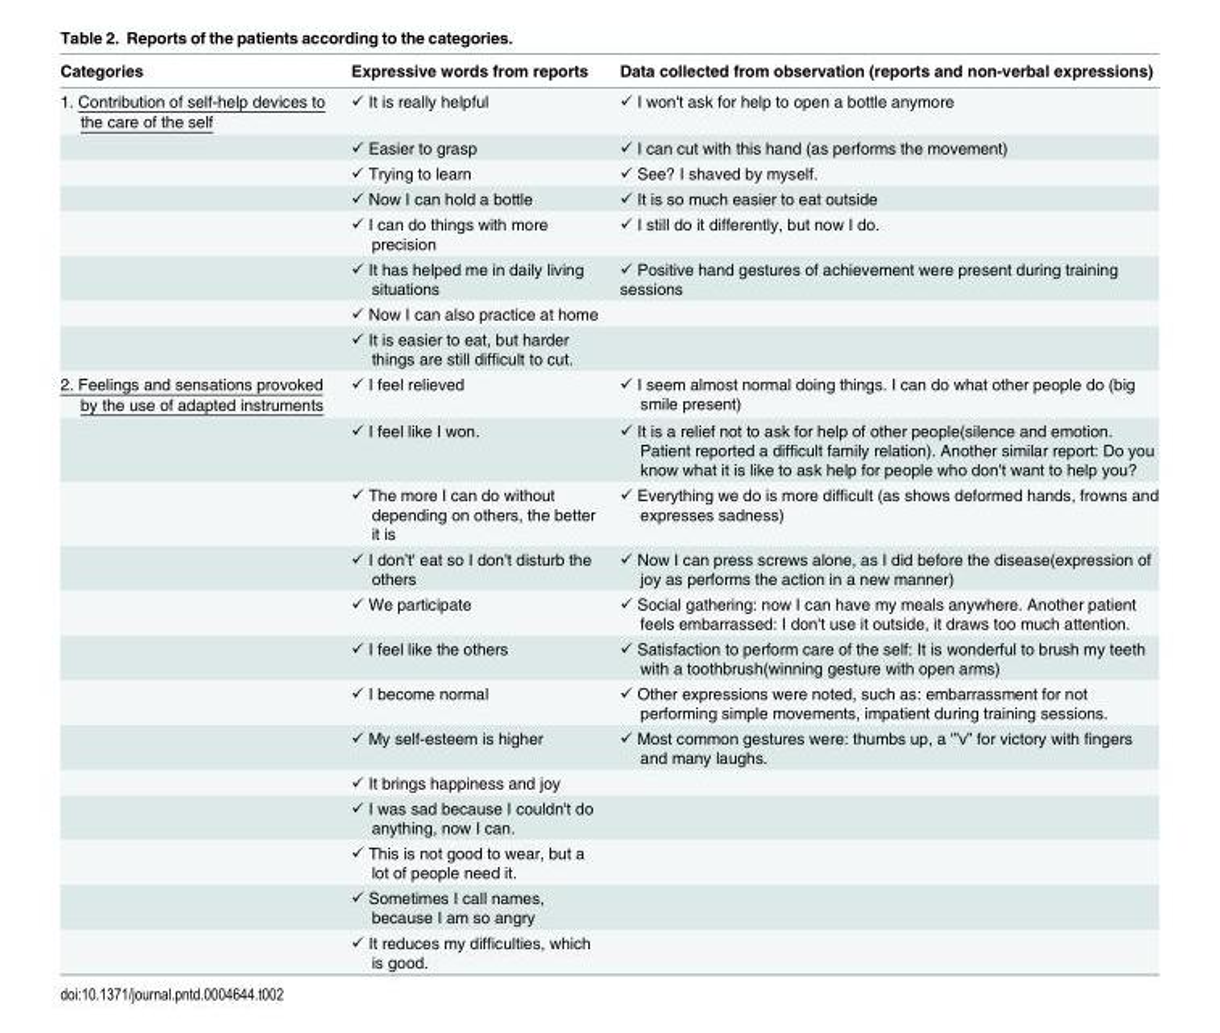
<table><thead><tr><td>Categories</td><td>Expressive words from reports</td><td>Data collected from observation (reports and non-verbal expressions)</td></tr></thead><tbody><tr><td rowspan="8">1. Contribution of self-help devices to the care of the self</td><td>✓ It is really helpful</td><td>✓ I won&#x27;t ask for help to open a bottle anymore</td></tr><tr><td>✓ Easier to grasp</td><td>✓ I can cut with this hand (as performs the movement)</td></tr><tr><td>✓ Trying to learn</td><td>✓ See? I shaved by myself.</td></tr><tr><td>✓ Now I can hold a bottle</td><td>✓ It is so much easier to eat outside</td></tr><tr><td>✓ I can do things with more precision</td><td>✓ I still do it differently, but now I do.</td></tr><tr><td>✓ It has helped me in daily living situations</td><td>✓ Positive hand gestures of achievement were present during training sessions</td></tr><tr><td>✓ Now I can also practice at home</td><td></td></tr><tr><td>✓ It is easier to eat, but harder things are still difficult to cut.</td><td></td></tr><tr><td rowspan="13">2. Feelings and sensations provoked by the use of adapted instruments</td><td>✓ I feel relieved</td><td>✓ I seem almost normal doing things. I can do what other people do (big smile present)</td></tr><tr><td>✓ I feel like I won.</td><td>✓ It is a relief not to ask for help of other people(silence and emotion. Patient reported a difficult family relation). Another similar report: Do you know what it is like to ask help for people who don&#x27;t want to help you?</td></tr><tr><td>✓ The more I can do without depending on others, the better it is</td><td>✓ Everything we do is more difficult (as shows deformed hands, frowns and expresses sadness)</td></tr><tr><td>✓ I don’t&#x27; eat so I don&#x27;t disturb the others</td><td>✓ Now I can press screws alone, as I did before the disease(expression of joy as performs the action in a new manner)</td></tr><tr><td>✓ We participate</td><td>✓ Social gathering: now I can have my meals anywhere. Another patient feels embarrassed: I don&#x27;t use it outside, it draws too much attention.</td></tr><tr><td>✓ I feel like the others</td><td>✓ Satisfaction to perform care of the self: It is wonderful to brush my teeth with a toothbrush(winning gesture with open arms)</td></tr><tr><td>✓ I become normal</td><td>✓ Other expressions were noted, such as: embarrassment for not performing simple movements, impatient during training sessions.</td></tr><tr><td>✓ My self-esteem is higher</td><td>✓ Most common gestures were: thumbs up, a &#x27;”v” for victory with fingers and many laughs.</td></tr><tr><td>✓ It brings happiness and joy</td><td></td></tr><tr><td>✓ I was sad because I couldn&#x27;t do anything, now I can.</td><td></td></tr><tr><td>✓ This is not good to wear, but a lot of people need it.</td><td></td></tr><tr><td>✓ Sometimes I call names, because I am so angry</td><td></td></tr><tr><td>✓ It reduces my difficulties, which is good.</td><td></td></tr></tbody></table>